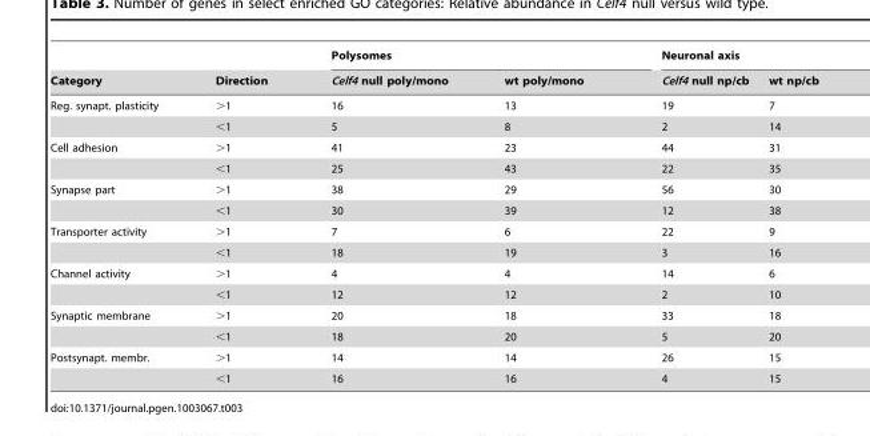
<table><thead><tr><td rowspan="2">Category</td><td rowspan="2">Direction</td><td colspan="2">Polysomes</td><td colspan="2">Neuronal axis</td></tr><tr><td>Celf4 null poly/mono</td><td>wt poly/mono</td><td>Celf4 null np/cb</td><td>wt np/cb</td></tr></thead><tbody><tr><td rowspan="2">Reg. synapt. plasticity</td><td>&gt;1</td><td>16</td><td>13</td><td>19</td><td>7</td></tr><tr><td>&lt;1</td><td>5</td><td>8</td><td>2</td><td>14</td></tr><tr><td rowspan="2">Cell adhesion</td><td>&gt;1</td><td>41</td><td>23</td><td>44</td><td>31</td></tr><tr><td>&lt;1</td><td>25</td><td>43</td><td>22</td><td>35</td></tr><tr><td rowspan="2">Synapse part</td><td>&gt;1</td><td>38</td><td>29</td><td>56</td><td>30</td></tr><tr><td>&lt;1</td><td>30</td><td>39</td><td>12</td><td>38</td></tr><tr><td rowspan="2">Transporter activity</td><td>&gt;1</td><td>7</td><td>6</td><td>22</td><td>9</td></tr><tr><td>&lt;1</td><td>18</td><td>19</td><td>3</td><td>16</td></tr><tr><td rowspan="2">Channel activity</td><td>&gt;1</td><td>4</td><td>4</td><td>14</td><td>6</td></tr><tr><td>&lt;1</td><td>12</td><td>12</td><td>2</td><td>10</td></tr><tr><td rowspan="2">Synaptic membrane</td><td>&gt;1</td><td>20</td><td>18</td><td>33</td><td>18</td></tr><tr><td>&lt;1</td><td>18</td><td>20</td><td>5</td><td>20</td></tr><tr><td rowspan="2">Postsynapt. membr.</td><td>&gt;1</td><td>14</td><td>14</td><td>26</td><td>15</td></tr><tr><td>&lt;1</td><td>16</td><td>16</td><td>4</td><td>15</td></tr></tbody></table>